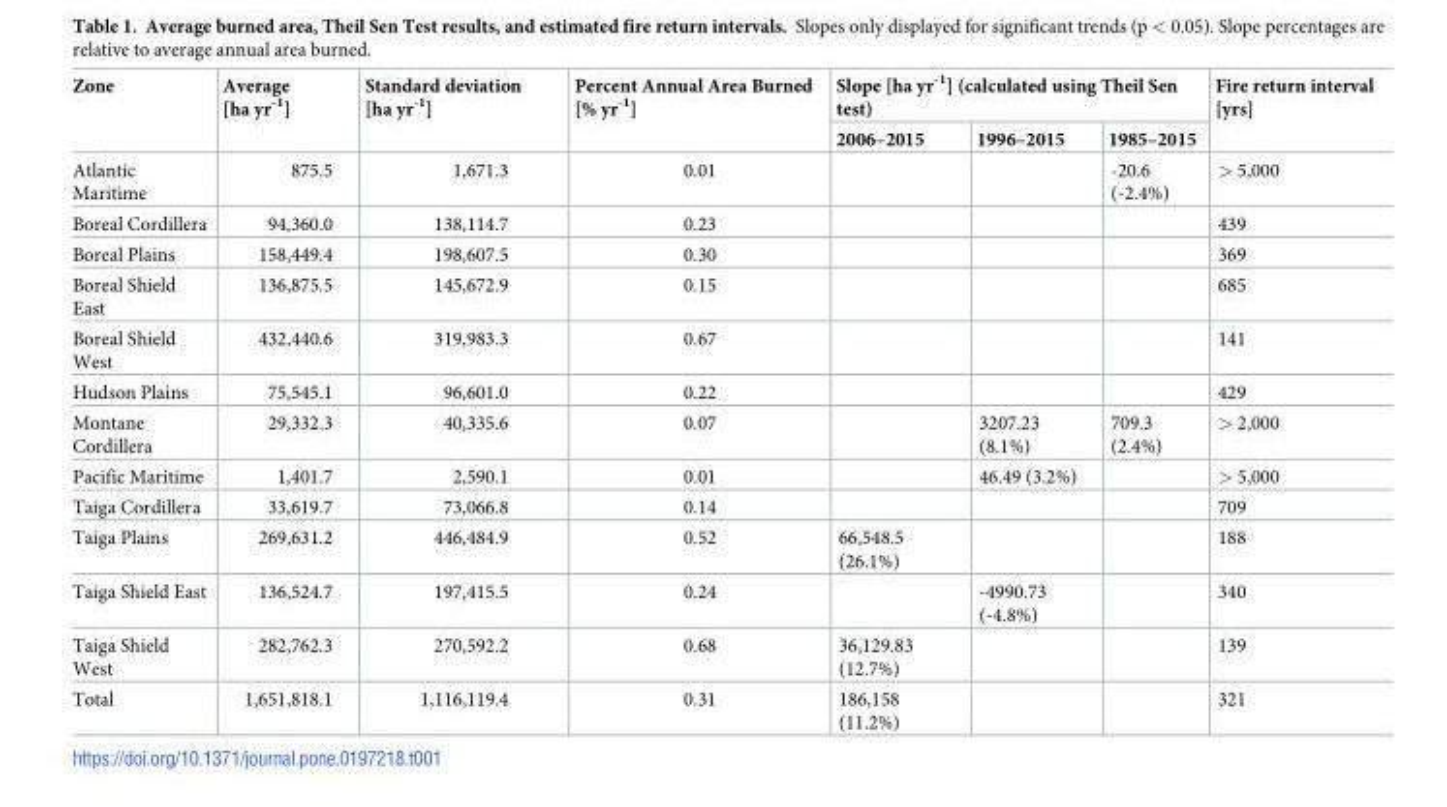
<table><thead><tr><td rowspan="2">Zone</td><td rowspan="2">Average [ha yr<sup>-1</sup>]</td><td rowspan="2">Standard deviation [ha yr<sup>-1</sup>]</td><td rowspan="2">Percent Annual Area Burned [% yr<sup>-1</sup>]</td><td colspan="3">Slope [ha yr<sup>-1</sup>] (calculated using Theil Sen test)</td><td rowspan="2">Fire return interval [yrs]</td></tr><tr><td>2006–2015</td><td>1996–2015</td><td>1985–2015</td></tr></thead><tbody><tr><td>Atlantic Maritime</td><td>875.5</td><td>1,671.3</td><td>0.01</td><td></td><td></td><td>-20.6 (-2.4%)</td><td>&gt; 5,000</td></tr><tr><td>Boreal Cordillera</td><td>94,360.0</td><td>138,114.7</td><td>0.23</td><td></td><td></td><td></td><td>439</td></tr><tr><td>Boreal Plains</td><td>158,449.4</td><td>198,607.5</td><td>0.30</td><td></td><td></td><td></td><td>369</td></tr><tr><td>Boreal Shield East</td><td>136,875.5</td><td>145,672.9</td><td>0.15</td><td></td><td></td><td></td><td>685</td></tr><tr><td>Boreal Shield West</td><td>432,440.6</td><td>319,983.3</td><td>0.67</td><td></td><td></td><td></td><td>141</td></tr><tr><td>Hudson Plains</td><td>75,545.1</td><td>96,601.0</td><td>0.22</td><td></td><td></td><td></td><td>429</td></tr><tr><td>Montane Cordillera</td><td>29,332.3</td><td>40,335.6</td><td>0.07</td><td></td><td>3207.23 (8.1%)</td><td>709.3 (2.4%)</td><td>&gt; 2,000</td></tr><tr><td>Pacific Maritime</td><td>1,401.7</td><td>2,590.1</td><td>0.01</td><td></td><td>46.49 (3.2%)</td><td></td><td>&gt; 5,000</td></tr><tr><td>Taiga Cordillera</td><td>33,619.7</td><td>73,066.8</td><td>0.14</td><td></td><td></td><td></td><td>709</td></tr><tr><td>Taiga Plains</td><td>269,631.2</td><td>446,484.9</td><td>0.52</td><td>66,548.5 (26.1%)</td><td></td><td></td><td>188</td></tr><tr><td>Taiga Shield East</td><td>136,524.7</td><td>197,415.5</td><td>0.24</td><td></td><td>-4990.73 (-4.8%)</td><td></td><td>340</td></tr><tr><td>Taiga Shield West</td><td>282,762.3</td><td>270,592.2</td><td>0.68</td><td>36,129.83 (12.7%)</td><td></td><td></td><td>139</td></tr><tr><td>Total</td><td>1,651,818.1</td><td>1,116,119.4</td><td>0.31</td><td>186,158 (11.2%)</td><td></td><td></td><td>321</td></tr></tbody></table>